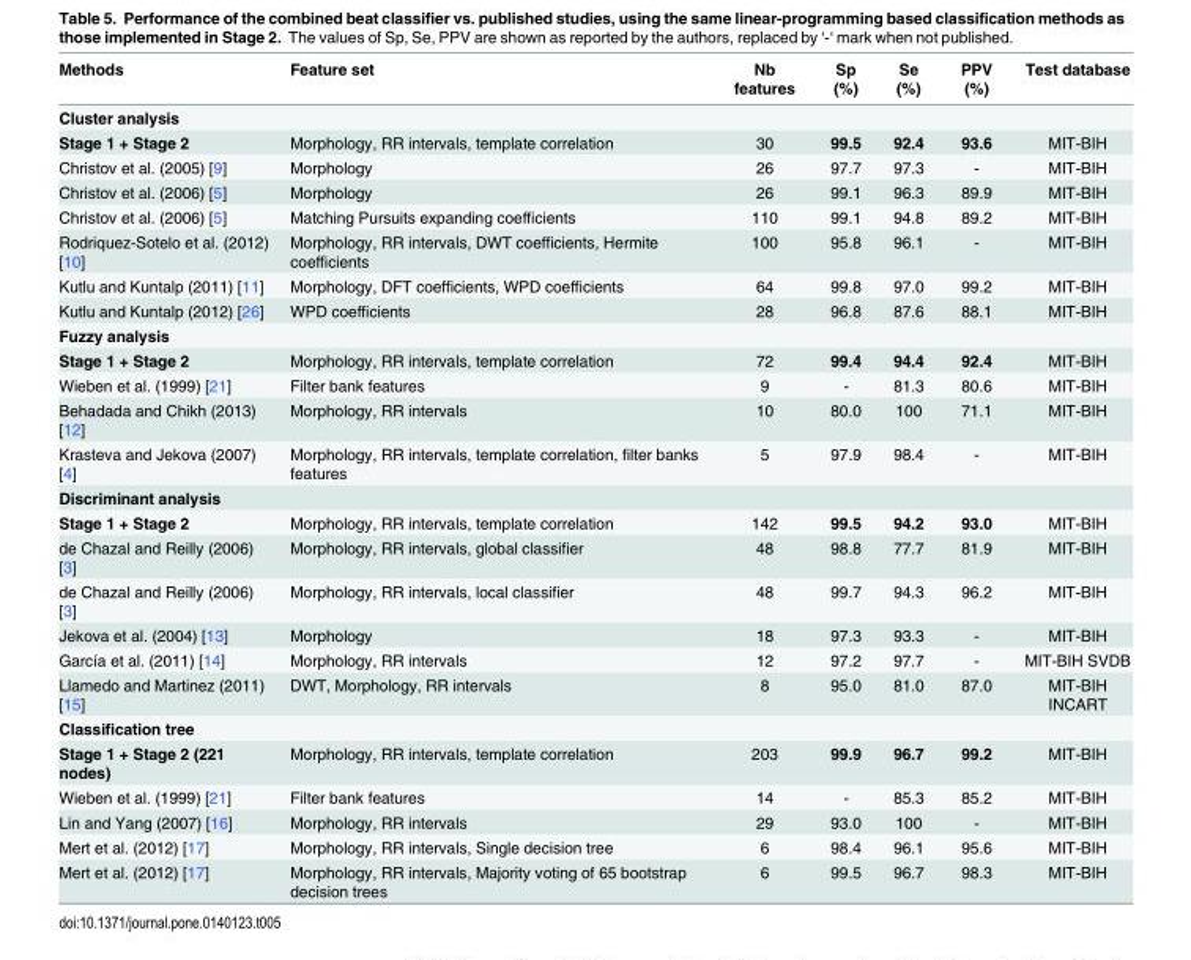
<table><thead><tr><td>Methods</td><td>Feature set</td><td>Nb features</td><td>Sp (%)</td><td>Se (%)</td><td>PPV (%)</td><td>Test database</td></tr></thead><tbody><tr><td colspan="7">Cluster analysis</td></tr><tr><td>Stage 1 + Stage 2</td><td>Morphology, RR intervals, template correlation</td><td>30</td><td>99.5</td><td>92.4</td><td>93.6</td><td>MIT-BIH</td></tr><tr><td>Christov et al. (2005) [9]</td><td>Morphology</td><td>26</td><td>97.7</td><td>97.3</td><td>-</td><td>MIT-BIH</td></tr><tr><td>Christov et al. (2006) [5]</td><td>Morphology</td><td>26</td><td>99.1</td><td>96.3</td><td>89.9</td><td>MIT-BIH</td></tr><tr><td>Christov et al. (2006) [5]</td><td>Matching Pursuits expanding coefficients</td><td>110</td><td>99.1</td><td>94.8</td><td>89.2</td><td>MIT-BIH</td></tr><tr><td>Rodriquez-Sotelo et al. (2012) [10]</td><td>Morphology, RR intervals, DWT coefficients, Hermite coefficients</td><td>100</td><td>95.8</td><td>96.1</td><td>-</td><td>MIT-BIH</td></tr><tr><td>Kutlu and Kuntalp (2011) [11]</td><td>Morphology, DFT coefficients, WPD coefficients</td><td>64</td><td>99.8</td><td>97.0</td><td>99.2</td><td>MIT-BIH</td></tr><tr><td>Kutlu and Kuntalp (2012) [26]</td><td>WPD coefficients</td><td>28</td><td>96.8</td><td>87.6</td><td>88.1</td><td>MIT-BIH</td></tr><tr><td colspan="7">Fuzzy analysis</td></tr><tr><td>Stage 1 + Stage 2</td><td>Morphology, RR intervals, template correlation</td><td>72</td><td>99.4</td><td>94.4</td><td>92.4</td><td>MIT-BIH</td></tr><tr><td>Wieben et al. (1999) [21]</td><td>Filter bank features</td><td>9</td><td>-</td><td>81.3</td><td>80.6</td><td>MIT-BIH</td></tr><tr><td>Behadada and Chikh (2013) [12]</td><td>Morphology, RR intervals</td><td>10</td><td>80.0</td><td>100</td><td>71.1</td><td>MIT-BIH</td></tr><tr><td>Krasteva and Jekova (2007) [4]</td><td>Morphology, RR intervals, template correlation, filter banks features</td><td>5</td><td>97.9</td><td>98.4</td><td>-</td><td>MIT-BIH</td></tr><tr><td colspan="7">Discriminant analysis</td></tr><tr><td>Stage 1 + Stage 2</td><td>Morphology, RR intervals, template correlation</td><td>142</td><td>99.5</td><td>94.2</td><td>93.0</td><td>MIT-BIH</td></tr><tr><td>de Chazal and Reilly (2006) [3]</td><td>Morphology, RR intervals, global classifier</td><td>48</td><td>98.8</td><td>77.7</td><td>81.9</td><td>MIT-BIH</td></tr><tr><td>de Chazal and Reilly (2006) [3]</td><td>Morphology, RR intervals, local classifier</td><td>48</td><td>99.7</td><td>94.3</td><td>96.2</td><td>MIT-BIH</td></tr><tr><td>Jekova et al. (2004) [13]</td><td>Morphology</td><td>18</td><td>97.3</td><td>93.3</td><td>-</td><td>MIT-BIH</td></tr><tr><td>García et al. (2011) [14]</td><td>Morphology, RR intervals</td><td>12</td><td>97.2</td><td>97.7</td><td>-</td><td>MIT-BIH SVDB</td></tr><tr><td>Llamedo and Martinez (2011) [15]</td><td>DWT, Morphology, RR intervals</td><td>8</td><td>95.0</td><td>81.0</td><td>87.0</td><td>MIT-BIH INCART</td></tr><tr><td colspan="7">Classification tree</td></tr><tr><td>Stage 1 + Stage 2 (221 nodes)</td><td>Morphology, RR intervals, template correlation</td><td>203</td><td>99.9</td><td>96.7</td><td>99.2</td><td>MIT-BIH</td></tr><tr><td>Wieben et al. (1999) [21]</td><td>Filter bank features</td><td>14</td><td>-</td><td>85.3</td><td>85.2</td><td>MIT-BIH</td></tr><tr><td>Lin and Yang (2007) [16]</td><td>Morphology, RR intervals</td><td>29</td><td>93.0</td><td>100</td><td>-</td><td>MIT-BIH</td></tr><tr><td>Mert et al. (2012) [17]</td><td>Morphology, RR intervals, Single decision tree</td><td>6</td><td>98.4</td><td>96.1</td><td>95.6</td><td>MIT-BIH</td></tr><tr><td>Mert et al. (2012) [17]</td><td>Morphology, RR intervals, Majority voting of 65 bootstrap decision trees</td><td>6</td><td>99.5</td><td>96.7</td><td>98.3</td><td>MIT-BIH</td></tr></tbody></table>